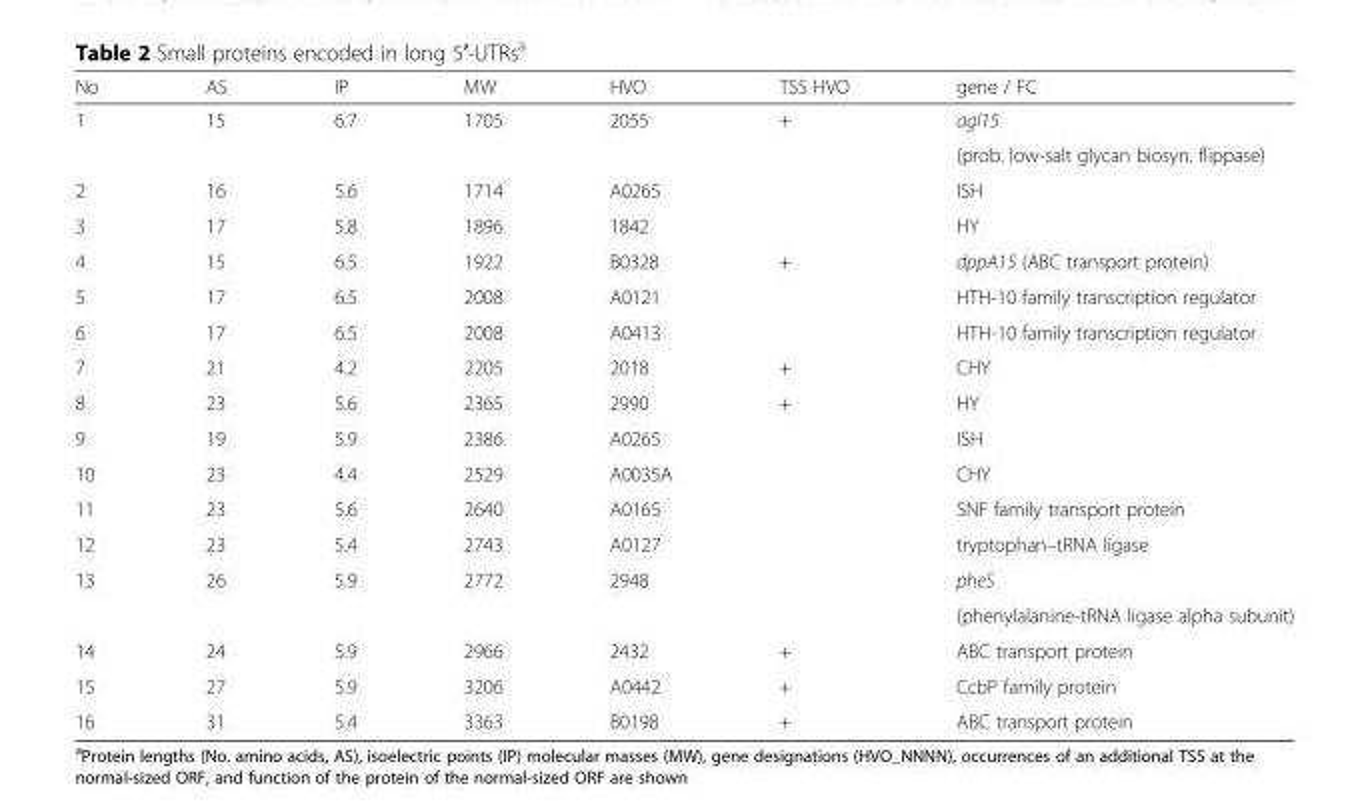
<table><thead><tr><td>No</td><td>AS</td><td>IP</td><td>MW</td><td>HVO</td><td>TSS HVO</td><td>gene / FC</td></tr></thead><tbody><tr><td rowspan="2">1</td><td rowspan="2">15</td><td rowspan="2">6.7</td><td rowspan="2">1705</td><td rowspan="2">2055</td><td rowspan="2">+</td><td>agl15</td></tr><tr><td>(prob. low-salt glycan biosyn. flippase)</td></tr><tr><td>2</td><td>16</td><td>5.6</td><td>1714</td><td>A0265</td><td></td><td>ISH</td></tr><tr><td>3</td><td>17</td><td>5.8</td><td>1896</td><td>1842</td><td></td><td>HY</td></tr><tr><td>4</td><td>15</td><td>6.5</td><td>1922</td><td>B0328</td><td>+</td><td>dppA15 (ABC transport protein)</td></tr><tr><td>5</td><td>17</td><td>6.5</td><td>2008</td><td>A0121</td><td></td><td>HTH-10 family transcription regulator</td></tr><tr><td>6</td><td>17</td><td>6.5</td><td>2008</td><td>A0413</td><td></td><td>HTH-10 family transcription regulator</td></tr><tr><td>7</td><td>21</td><td>4.2</td><td>2205</td><td>2018</td><td>+</td><td>CHY</td></tr><tr><td>8</td><td>23</td><td>5.6</td><td>2365</td><td>2990</td><td>+</td><td>HY</td></tr><tr><td>9</td><td>19</td><td>5.9</td><td>2386</td><td>A0265</td><td></td><td>ISH</td></tr><tr><td>10</td><td>23</td><td>4.4</td><td>2529</td><td>A0035A</td><td></td><td>CHY</td></tr><tr><td>11</td><td>23</td><td>5.6</td><td>2640</td><td>A0165</td><td></td><td>SNF family transport protein</td></tr><tr><td>12</td><td>23</td><td>5.4</td><td>2743</td><td>A0127</td><td></td><td>tryptophan–tRNA ligase</td></tr><tr><td rowspan="2">13</td><td rowspan="2">26</td><td rowspan="2">5.9</td><td rowspan="2">2772</td><td rowspan="2">2948</td><td rowspan="2"></td><td>pheS</td></tr><tr><td>(phenylalanine-tRNA ligase alpha subunit)</td></tr><tr><td>14</td><td>24</td><td>5.9</td><td>2966</td><td>2432</td><td>+</td><td>ABC transport protein</td></tr><tr><td>15</td><td>27</td><td>5.9</td><td>3206</td><td>A0442</td><td>+</td><td>CcbP family protein</td></tr><tr><td>16</td><td>31</td><td>5.4</td><td>3363</td><td>B0198</td><td>+</td><td>ABC transport protein</td></tr></tbody></table>